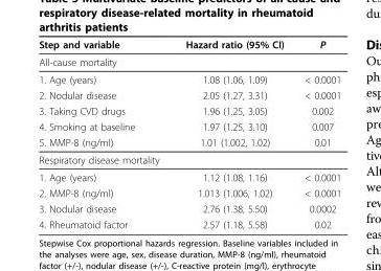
<table><thead><tr><td>Step and variable</td><td>Hazard ratio (95% CI)</td><td>P</td></tr></thead><tbody><tr><td colspan="3">All-cause mortality</td></tr><tr><td>1. Age (years)</td><td>1.08 (1.06, 1.09)</td><td>&lt; 0.0001</td></tr><tr><td>2. Nodular disease</td><td>2.05 (1.27, 3.31)</td><td>&lt; 0.0001</td></tr><tr><td>3. Taking CVD drugs</td><td>1.96 (1.25, 3.05)</td><td>0.002</td></tr><tr><td>4. Smoking at baseline</td><td>1.97 (1.25, 3.10)</td><td>0.007</td></tr><tr><td>5. MMP-8 (ng/ml)</td><td>1.01 (1.002, 1.02)</td><td>0.01</td></tr><tr><td colspan="3">Respiratory disease mortality</td></tr><tr><td>1. Age (years)</td><td>1.12 (1.08, 1.16)</td><td>&lt; 0.0001</td></tr><tr><td>2. MMP-8 (ng/ml)</td><td>1.013 (1.006, 1.02)</td><td>&lt; 0.0001</td></tr><tr><td>3. Nodular disease</td><td>2.76 (1.38, 5.50)</td><td>0.0002</td></tr><tr><td>4. Rheumatoid factor</td><td>2.57 (1.18, 5.58)</td><td>0.02</td></tr></tbody></table>